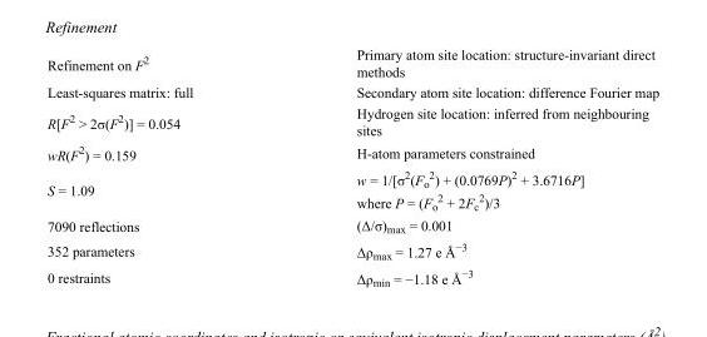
<table><tbody><tr><td>Refinement on F<sup>2</sup></td><td>Primary atom site location: structure-invariant direct methods</td></tr><tr><td>Least-squares matrix: full</td><td>Secondary atom site location: difference Fourier map</td></tr><tr><td>R[F<sup>2</sup> &gt; 2σ(F<sup>2</sup>)] = 0.054</td><td>Hydrogen site location: inferred from neighbouring sites</td></tr><tr><td>wR(F<sup>2</sup>) = 0.159</td><td>H-atom parameters constrained</td></tr><tr><td>S = 1.09</td><td>w = 1/[σ<sup>2</sup>(F<sub>o</sub> <sup>2</sup>) + (0.0769P)<sup>2</sup> + 3.6716P] where P = (F<sub>o</sub> <sup>2</sup> + 2F<sub>c</sub> <sup>2</sup>)/3</td></tr><tr><td>7090 reflections</td><td>(Δ/σ)<sub>max</sub> = 0.001</td></tr><tr><td>352 parameters</td><td>Δρmax = 1.27 e Å−3</td></tr><tr><td>0 restraints</td><td>Δρ<sub>min</sub> = −1.18 e Å<sup>−3</sup></td></tr></tbody></table>